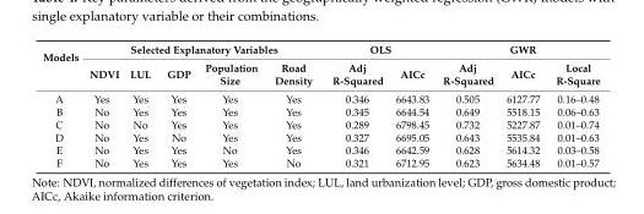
<table><thead><tr><td rowspan="2">Models</td><td colspan="5">Selected Explanatory Variables</td><td colspan="2">OLS</td><td colspan="3">GWR</td></tr><tr><td>NDVI</td><td>LUL</td><td>GDP</td><td>Population Size</td><td>Road Density</td><td>Adj R-Squared</td><td>AICc</td><td>Adj R-Squared</td><td>AICc</td><td>Local R-Square</td></tr></thead><tbody><tr><td>A</td><td>Yes</td><td>Yes</td><td>Yes</td><td>Yes</td><td>Yes</td><td>0.346</td><td>6643.83</td><td>0.505</td><td>6127.77</td><td>0.16–0.48</td></tr><tr><td>B</td><td>No</td><td>Yes</td><td>Yes</td><td>Yes</td><td>Yes</td><td>0.345</td><td>6644.54</td><td>0.649</td><td>5518.15</td><td>0.06–0.63</td></tr><tr><td>C</td><td>No</td><td>No</td><td>Yes</td><td>Yes</td><td>Yes</td><td>0.289</td><td>6798.45</td><td>0.732</td><td>5227.87</td><td>0.01–0.74</td></tr><tr><td>D</td><td>No</td><td>Yes</td><td>No</td><td>Yes</td><td>Yes</td><td>0.327</td><td>6695.05</td><td>0.643</td><td>5535.84</td><td>0.01–0.63</td></tr><tr><td>E</td><td>No</td><td>Yes</td><td>Yes</td><td>No</td><td>Yes</td><td>0.346</td><td>6642.59</td><td>0.628</td><td>5614.32</td><td>0.03–0.58</td></tr><tr><td>F</td><td>No</td><td>Yes</td><td>Yes</td><td>Yes</td><td>No</td><td>0.321</td><td>6712.95</td><td>0.623</td><td>5634.48</td><td>0.01–0.57</td></tr></tbody></table>